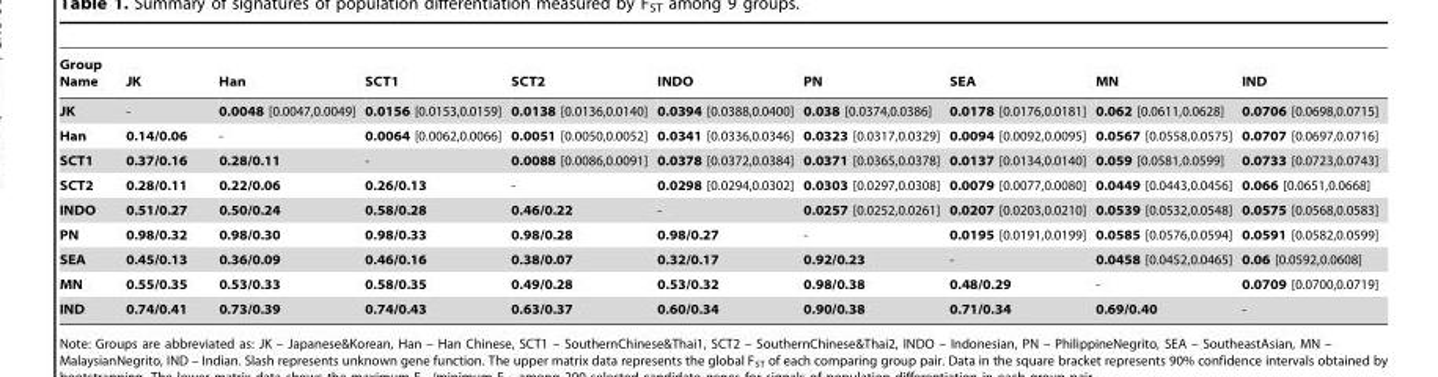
<table><thead><tr><td>Group Name</td><td>JK</td><td>Han</td><td>SCT1</td><td>SCT2</td><td>INDO</td><td>PN</td><td>SEA</td><td>MN</td><td>IND</td></tr></thead><tbody><tr><td>JK</td><td>-</td><td>0.0048 [0.0047,0.0049]</td><td>0.0156 [0.0153,0.0159]</td><td>0.0138 [0.0136,0.0140]</td><td>0.0394 [0.0388,0.0400]</td><td>0.038 [0.0374,0.0386]</td><td>0.0178 [0.0176,0.0181]</td><td>0.062 [0.0611,0.0628]</td><td>0.0706 [0.0698,0.0715]</td></tr><tr><td>Han</td><td>0.14/0.06</td><td>-</td><td>0.0064 [0.0062,0.0066]</td><td>0.0051 [0.0050,0.0052]</td><td>0.0341 [0.0336,0.0346]</td><td>0.0323 [0.0317,0.0329]</td><td>0.0094 [0.0092,0.0095]</td><td>0.0567 [0.0558,0.0575]</td><td>0.0707 [0.0697,0.0716]</td></tr><tr><td>SCT1</td><td>0.37/0.16</td><td>0.28/0.11</td><td>-</td><td>0.0088 [0.0086,0.0091]</td><td>0.0378 [0.0372,0.0384]</td><td>0.0371 [0.0365,0.0378]</td><td>0.0137 [0.0134,0.0140]</td><td>0.059 [0.0581,0.0599]</td><td>0.0733 [0.0723,0.0743]</td></tr><tr><td>SCT2</td><td>0.28/0.11</td><td>0.22/0.06</td><td>0.26/0.13</td><td>-</td><td>0.0298 [0.0294,0.0302]</td><td>0.0303 [0.0297,0.0308]</td><td>0.0079 [0.0077,0.0080]</td><td>0.0449 [0.0443,0.0456]</td><td>0.066 [0.0651,0.0668]</td></tr><tr><td>INDO</td><td>0.51/0.27</td><td>0.50/0.24</td><td>0.58/0.28</td><td>0.46/0.22</td><td>-</td><td>0.0257 [0.0252,0.0261]</td><td>0.0207 [0.0203,0.0210]</td><td>0.0539 [0.0532,0.0548]</td><td>0.0575 [0.0568,0.0583]</td></tr><tr><td>PN</td><td>0.98/0.32</td><td>0.98/0.30</td><td>0.98/0.33</td><td>0.98/0.28</td><td>0.98/0.27</td><td>-</td><td>0.0195 [0.0191,0.0199]</td><td>0.0585 [0.0576,0.0594]</td><td>0.0591 [0.0582,0.0599]</td></tr><tr><td>SEA</td><td>0.45/0.13</td><td>0.36/0.09</td><td>0.46/0.16</td><td>0.38/0.07</td><td>0.32/0.17</td><td>0.92/0.23</td><td>-</td><td>0.0458 [0.0452,0.0465]</td><td>0.06 [0.0592,0.0608]</td></tr><tr><td>MN</td><td>0.55/0.35</td><td>0.53/0.33</td><td>0.58/0.35</td><td>0.49/0.28</td><td>0.53/0.32</td><td>0.98/0.38</td><td>0.48/0.29</td><td>-</td><td>0.0709 [0.0700,0.0719]</td></tr><tr><td>IND</td><td>0.74/0.41</td><td>0.73/0.39</td><td>0.74/0.43</td><td>0.63/0.37</td><td>0.60/0.34</td><td>0.90/0.38</td><td>0.71/0.34</td><td>0.69/0.40</td><td>-</td></tr></tbody></table>